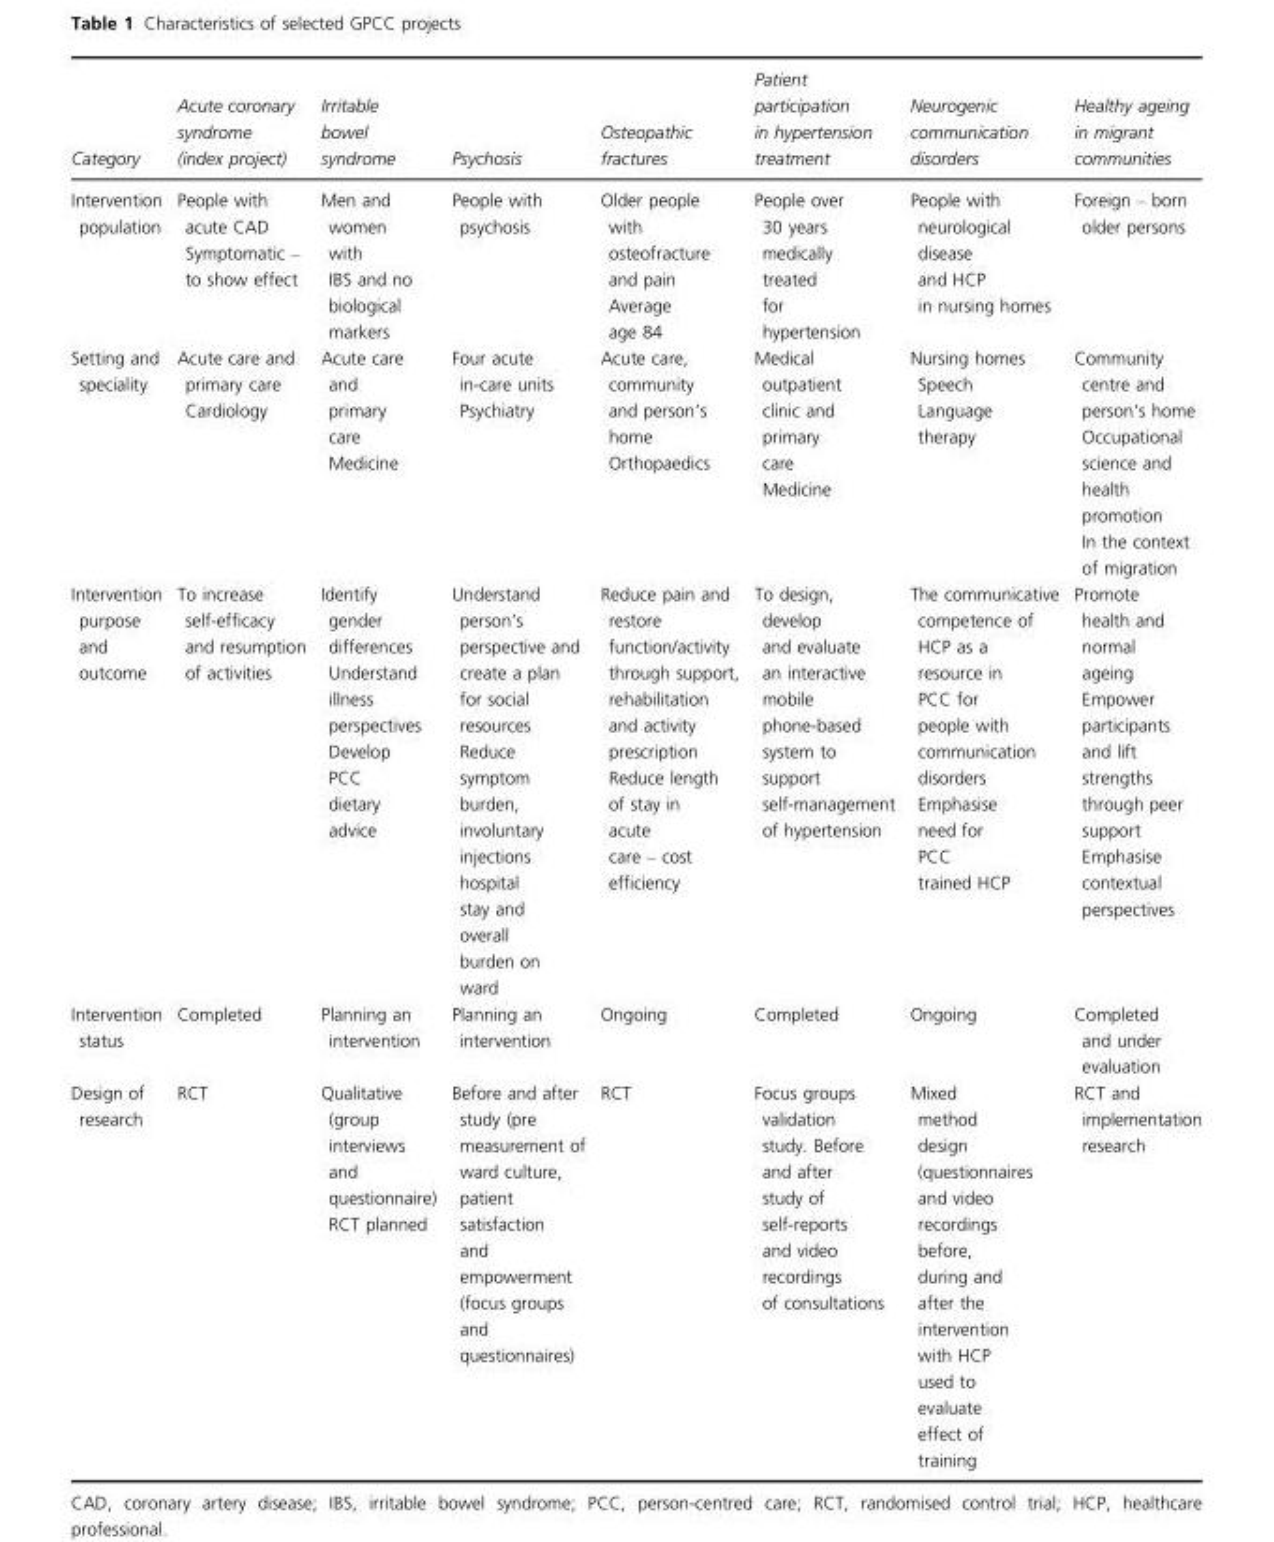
<table><thead><tr><td>Category</td><td>Acute coronary syndrome (index project)</td><td>Irritable bowel syndrome</td><td>Psychosis</td><td>Osteopathic fractures</td><td>Patient participation in hypertension treatment</td><td>Neurogenic communication disorders</td><td>Healthy ageing in migrant communities</td></tr></thead><tbody><tr><td>Intervention population</td><td>People with acute CAD Symptomatic – to show effect</td><td>Men and women with IBS and no biological markers</td><td>People with psychosis</td><td>Older people with osteofracture and pain Average age 84</td><td>People over 30 years medically treated for hypertension</td><td>People with neurological disease and HCP in nursing homes</td><td>Foreign – born older persons</td></tr><tr><td>Setting and speciality</td><td>Acute care and primary care Cardiology</td><td>Acute care and primary care Medicine</td><td>Four acute in-care units Psychiatry</td><td>Acute care, community and person’s home Orthopaedics</td><td>Medical outpatient clinic and primary care Medicine</td><td>Nursing homes Speech Language therapy</td><td>Community centre and person’s home Occupational science and health promotion In the context of migration</td></tr><tr><td>Intervention purpose and outcome</td><td>To increase self-efficacy and resumption of activities</td><td>Identify gender differences Understand illness perspectives Develop PCC dietary advice</td><td>Understand person’s perspective and create a plan for social resources Reduce symptom burden, involuntary injections hospital stay and overall burden on ward</td><td>Reduce pain and restore function/activity through support, rehabilitation and activity prescription Reduce length of stay in acute care – cost efficiency</td><td>To design, develop and evaluate an interactive mobile phone-based system to support self-management of hypertension</td><td>The communicative competence of HCP as a resource in PCC for people with communication disorders Emphasise need for PCC trained HCP</td><td>Promote health and normal ageing Empower participants and lift strengths through peer support Emphasise contextual perspectives</td></tr><tr><td>Intervention status</td><td>Completed</td><td>Planning an intervention</td><td>Planning an intervention</td><td>Ongoing</td><td>Completed</td><td>Ongoing</td><td>Completed and under evaluation</td></tr><tr><td>Design of research</td><td>RCT</td><td>Qualitative (group interviews and questionnaire) RCT planned</td><td>Before and after study (pre measurement of ward culture, patient satisfaction and empowerment (focus groups and questionnaires)</td><td>RCT</td><td>Focus groups validation study. Before and after study of self-reports and video recordings of consultations</td><td>Mixed method design (questionnaires and video recordings before, during and after the intervention with HCP used to evaluate effect of training</td><td>RCT and implementation research</td></tr></tbody></table>